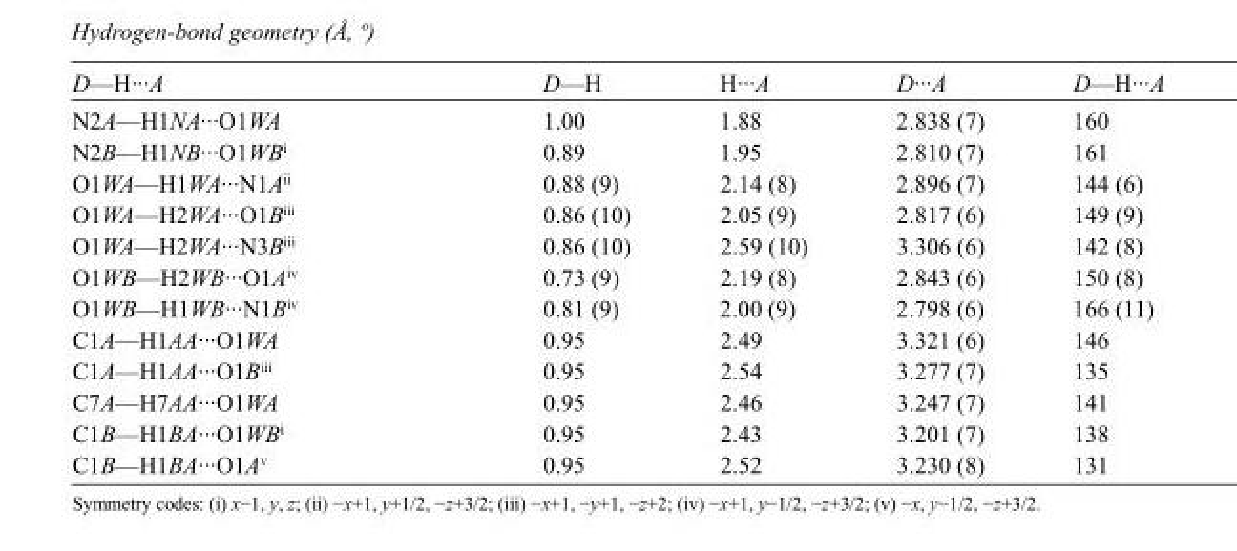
<table><tbody><tr><td>D—H···A</td><td>D—H</td><td>H···A</td><td>D···A</td><td>D—H···A</td></tr><tr><td>N2A—H1NA···O1WA</td><td>1.00</td><td>1.88</td><td>2.838 (7)</td><td>160</td></tr><tr><td>N2B—H1NB···O1WB<sup>i</sup></td><td>0.89</td><td>1.95</td><td>2.810 (7)</td><td>161</td></tr><tr><td>O1WA—H1WA···N1A<sup>ii</sup></td><td>0.88 (9)</td><td>2.14 (8)</td><td>2.896 (7)</td><td>144 (6)</td></tr><tr><td>O1WA—H2WA···O1B<sup>iii</sup></td><td>0.86 (10)</td><td>2.05 (9)</td><td>2.817 (6)</td><td>149 (9)</td></tr><tr><td>O1WA—H2WA···N3B<sup>iii</sup></td><td>0.86 (10)</td><td>2.59 (10)</td><td>3.306 (6)</td><td>142 (8)</td></tr><tr><td>O1WB—H2WB···O1A<sup>iv</sup></td><td>0.73 (9)</td><td>2.19 (8)</td><td>2.843 (6)</td><td>150 (8)</td></tr><tr><td>O1WB—H1WB···N1B<sup>iv</sup></td><td>0.81 (9)</td><td>2.00 (9)</td><td>2.798 (6)</td><td>166 (11)</td></tr><tr><td>C1A—H1AA···O1WA</td><td>0.95</td><td>2.49</td><td>3.321 (6)</td><td>146</td></tr><tr><td>C1A—H1AA···O1B<sup>iii</sup></td><td>0.95</td><td>2.54</td><td>3.277 (7)</td><td>135</td></tr><tr><td>C7A—H7AA···O1WA</td><td>0.95</td><td>2.46</td><td>3.247 (7)</td><td>141</td></tr><tr><td>C1B—H1BA···O1WB<sup>i</sup></td><td>0.95</td><td>2.43</td><td>3.201 (7)</td><td>138</td></tr><tr><td>C1B—H1BA···O1A<sup>v</sup></td><td>0.95</td><td>2.52</td><td>3.230 (8)</td><td>131</td></tr></tbody></table>